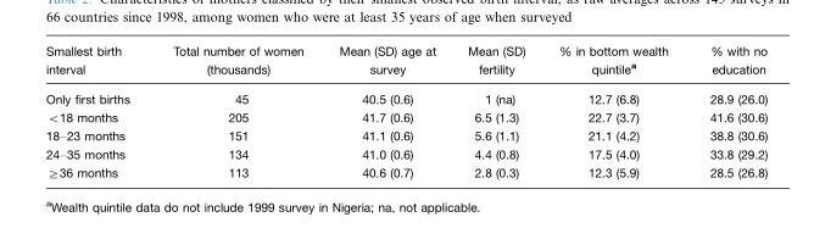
<table><thead><tr><td>Smallest birth interval</td><td>Total number of women (thousands)</td><td>Mean (SD) age at survey</td><td>Mean (SD) fertility</td><td>% in bottom wealth quintile<sup>a</sup></td><td>% with no education</td></tr></thead><tbody><tr><td>Only first births</td><td>45</td><td>40.5 (0.6)</td><td>1 (na)</td><td>12.7 (6.8)</td><td>28.9 (26.0)</td></tr><tr><td>&lt;18 months</td><td>205</td><td>41.7 (0.6)</td><td>6.5 (1.3)</td><td>22.7 (3.7)</td><td>41.6 (30.6)</td></tr><tr><td>18–23 months</td><td>151</td><td>41.1 (0.6)</td><td>5.6 (1.1)</td><td>21.1 (4.2)</td><td>38.8 (30.6)</td></tr><tr><td>24–35 months</td><td>134</td><td>41.0 (0.6)</td><td>4.4 (0.8)</td><td>17.5 (4.0)</td><td>33.8 (29.2)</td></tr><tr><td>≥36 months</td><td>113</td><td>40.6 (0.7)</td><td>2.8 (0.3)</td><td>12.3 (5.9)</td><td>28.5 (26.8)</td></tr></tbody></table>